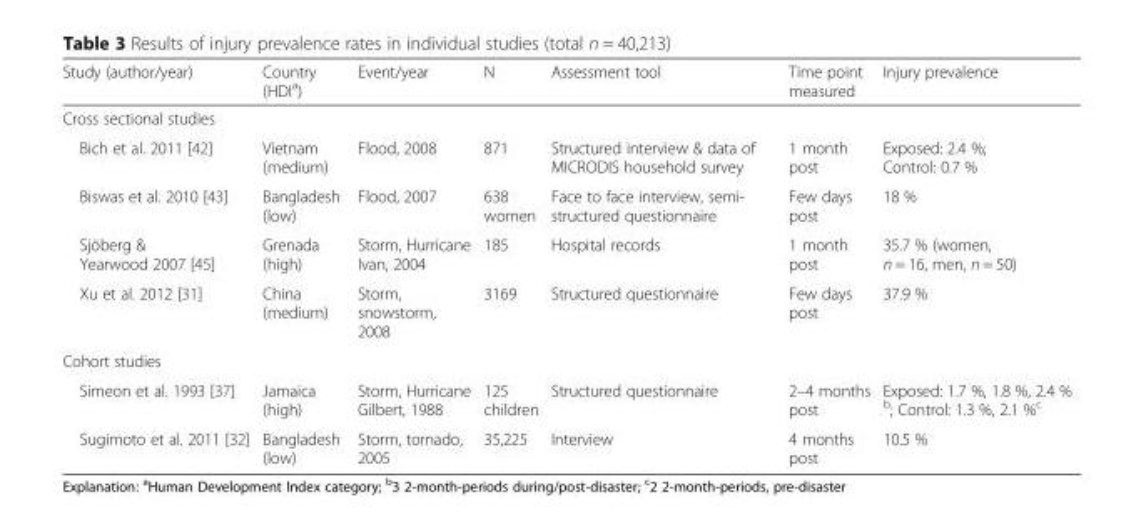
<table><thead><tr><td>Study (author/year)</td><td>Country (HDI<sup>a</sup>)</td><td>Event/year</td><td>N</td><td>Assessment tool</td><td>Time point measured</td><td>Injury prevalence</td></tr></thead><tbody><tr><td colspan="7">Cross sectional studies</td></tr><tr><td>Bich et al. 2011 [42]</td><td>Vietnam (medium)</td><td>Flood, 2008</td><td>871</td><td>Structured interview &amp; data of MICRODIS household survey</td><td>1 month post</td><td>Exposed: 2.4 %; Control: 0.7 %</td></tr><tr><td>Biswas et al. 2010 [43]</td><td>Bangladesh (low)</td><td>Flood, 2007</td><td>638 women</td><td>Face to face interview, semi- structured questionnaire</td><td>Few days post</td><td>18 %</td></tr><tr><td>Sjöberg &amp; Yearwood 2007 [45]</td><td>Grenada (high)</td><td>Storm, Hurricane Ivan, 2004</td><td>185</td><td>Hospital records</td><td>1 month post</td><td>35.7 % (women, n = 16, men, n = 50)</td></tr><tr><td>Xu et al. 2012 [31]</td><td>China (medium)</td><td>Storm, snowstorm, 2008</td><td>3169</td><td>Structured questionnaire</td><td>Few days post</td><td>37.9 %</td></tr><tr><td colspan="7">Cohort studies</td></tr><tr><td>Simeon et al. 1993 [37]</td><td>Jamaica (high)</td><td>Storm, Hurricane Gilbert, 1988</td><td>125 children</td><td>Structured questionnaire</td><td>2–4 months post</td><td>Exposed: 1.7 %, 1.8 %, 2.4 % <sup>b</sup>; Control: 1.3 %, 2.1 %<sup>c</sup></td></tr><tr><td>Sugimoto et al. 2011 [32]</td><td>Bangladesh (low)</td><td>Storm, tornado, 2005</td><td>35,225</td><td>Interview</td><td>4 months post</td><td>10.5 %</td></tr></tbody></table>